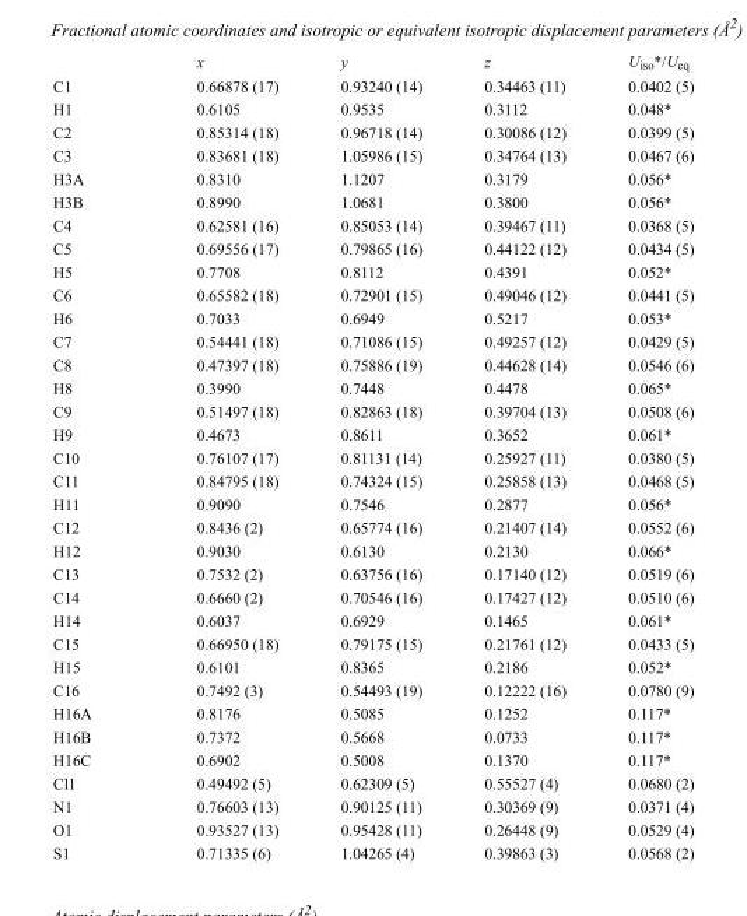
<table><thead><tr><td></td><td>x</td><td>y</td><td>z</td><td>U<sub>iso</sub>*/U<sub>eq</sub></td></tr></thead><tbody><tr><td>C1</td><td>0.66878 (17)</td><td>0.93240 (14)</td><td>0.34463 (11)</td><td>0.0402 (5)</td></tr><tr><td>H1</td><td>0.6105</td><td>0.9535</td><td>0.3112</td><td>0.048*</td></tr><tr><td>C2</td><td>0.85314 (18)</td><td>0.96718 (14)</td><td>0.30086 (12)</td><td>0.0399 (5)</td></tr><tr><td>C3</td><td>0.83681 (18)</td><td>1.05986 (15)</td><td>0.34764 (13)</td><td>0.0467 (6)</td></tr><tr><td>H3A</td><td>0.8310</td><td>1.1207</td><td>0.3179</td><td>0.056*</td></tr><tr><td>H3B</td><td>0.8990</td><td>1.0681</td><td>0.3800</td><td>0.056*</td></tr><tr><td>C4</td><td>0.62581 (16)</td><td>0.85053 (14)</td><td>0.39467 (11)</td><td>0.0368 (5)</td></tr><tr><td>C5</td><td>0.69556 (17)</td><td>0.79865 (16)</td><td>0.44122 (12)</td><td>0.0434 (5)</td></tr><tr><td>H5</td><td>0.7708</td><td>0.8112</td><td>0.4391</td><td>0.052*</td></tr><tr><td>C6</td><td>0.65582 (18)</td><td>0.72901 (15)</td><td>0.49046 (12)</td><td>0.0441 (5)</td></tr><tr><td>H6</td><td>0.7033</td><td>0.6949</td><td>0.5217</td><td>0.053*</td></tr><tr><td>C7</td><td>0.54441 (18)</td><td>0.71086 (15)</td><td>0.49257 (12)</td><td>0.0429 (5)</td></tr><tr><td>C8</td><td>0.47397 (18)</td><td>0.75886 (19)</td><td>0.44628 (14)</td><td>0.0546 (6)</td></tr><tr><td>H8</td><td>0.3990</td><td>0.7448</td><td>0.4478</td><td>0.065*</td></tr><tr><td>C9</td><td>0.51497 (18)</td><td>0.82863 (18)</td><td>0.39704 (13)</td><td>0.0508 (6)</td></tr><tr><td>H9</td><td>0.4673</td><td>0.8611</td><td>0.3652</td><td>0.061*</td></tr><tr><td>C10</td><td>0.76107 (17)</td><td>0.81131 (14)</td><td>0.25927 (11)</td><td>0.0380 (5)</td></tr><tr><td>C11</td><td>0.84795 (18)</td><td>0.74324 (15)</td><td>0.25858 (13)</td><td>0.0468 (5)</td></tr><tr><td>H11</td><td>0.9090</td><td>0.7546</td><td>0.2877</td><td>0.056*</td></tr><tr><td>C12</td><td>0.8436 (2)</td><td>0.65774 (16)</td><td>0.21407 (14)</td><td>0.0552 (6)</td></tr><tr><td>H12</td><td>0.9030</td><td>0.6130</td><td>0.2130</td><td>0.066*</td></tr><tr><td>C13</td><td>0.7532 (2)</td><td>0.63756 (16)</td><td>0.17140 (12)</td><td>0.0519 (6)</td></tr><tr><td>C14</td><td>0.6660 (2)</td><td>0.70546 (16)</td><td>0.17427 (12)</td><td>0.0510 (6)</td></tr><tr><td>H14</td><td>0.6037</td><td>0.6929</td><td>0.1465</td><td>0.061*</td></tr><tr><td>C15</td><td>0.66950 (18)</td><td>0.79175 (15)</td><td>0.21761 (12)</td><td>0.0433 (5)</td></tr><tr><td>H15</td><td>0.6101</td><td>0.8365</td><td>0.2186</td><td>0.052*</td></tr><tr><td>C16</td><td>0.7492 (3)</td><td>0.54493 (19)</td><td>0.12222 (16)</td><td>0.0780 (9)</td></tr><tr><td>H16A</td><td>0.8176</td><td>0.5085</td><td>0.1252</td><td>0.117*</td></tr><tr><td>H16B</td><td>0.7372</td><td>0.5668</td><td>0.0733</td><td>0.117*</td></tr><tr><td>H16C</td><td>0.6902</td><td>0.5008</td><td>0.1370</td><td>0.117*</td></tr><tr><td>Cl1</td><td>0.49492 (5)</td><td>0.62309 (5)</td><td>0.55527 (4)</td><td>0.0680 (2)</td></tr><tr><td>N1</td><td>0.76603 (13)</td><td>0.90125 (11)</td><td>0.30369 (9)</td><td>0.0371 (4)</td></tr><tr><td>O1</td><td>0.93527 (13)</td><td>0.95428 (11)</td><td>0.26448 (9)</td><td>0.0529 (4)</td></tr><tr><td>S1</td><td>0.71335 (6)</td><td>1.04265 (4)</td><td>0.39863 (3)</td><td>0.0568 (2)</td></tr></tbody></table>